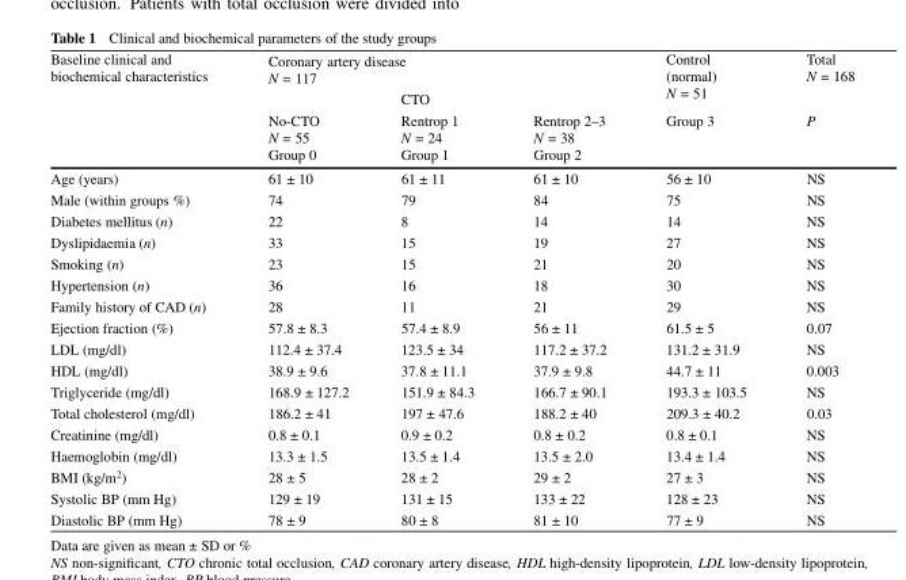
<table><thead><tr><td rowspan="3">Baseline clinical and biochemical characteristics</td><td colspan="3">Coronary artery disease N = 117</td><td rowspan="3">Control (normal) N = 51 Group 3</td><td rowspan="3">Total N = 168 P</td></tr><tr><td rowspan="2">No-CTO N = 55 Group 0</td><td colspan="2">CTO</td></tr><tr><td>Rentrop 1 N = 24 Group 1</td><td>Rentrop 2–3 N = 38 Group 2</td></tr></thead><tbody><tr><td>Age (years)</td><td>61 ± 10</td><td>61 ± 11</td><td>61 ± 10</td><td>56 ± 10</td><td>NS</td></tr><tr><td>Male (within groups %)</td><td>74</td><td>79</td><td>84</td><td>75</td><td>NS</td></tr><tr><td>Diabetes mellitus (n)</td><td>22</td><td>8</td><td>14</td><td>14</td><td>NS</td></tr><tr><td>Dyslipidaemia (n)</td><td>33</td><td>15</td><td>19</td><td>27</td><td>NS</td></tr><tr><td>Smoking (n)</td><td>23</td><td>15</td><td>21</td><td>20</td><td>NS</td></tr><tr><td>Hypertension (n)</td><td>36</td><td>16</td><td>18</td><td>30</td><td>NS</td></tr><tr><td>Family history of CAD (n)</td><td>28</td><td>11</td><td>21</td><td>29</td><td>NS</td></tr><tr><td>Ejection fraction (%)</td><td>57.8 ± 8.3</td><td>57.4 ± 8.9</td><td>56 ± 11</td><td>61.5 ± 5</td><td>0.07</td></tr><tr><td>LDL (mg/dl)</td><td>112.4 ± 37.4</td><td>123.5 ± 34</td><td>117.2 ± 37.2</td><td>131.2 ± 31.9</td><td>NS</td></tr><tr><td>HDL (mg/dl)</td><td>38.9 ± 9.6</td><td>37.8 ± 11.1</td><td>37.9 ± 9.8</td><td>44.7 ± 11</td><td>0.003</td></tr><tr><td>Triglyceride (mg/dl)</td><td>168.9 ± 127.2</td><td>151.9 ± 84.3</td><td>166.7 ± 90.1</td><td>193.3 ± 103.5</td><td>NS</td></tr><tr><td>Total cholesterol (mg/dl)</td><td>186.2 ± 41</td><td>197 ± 47.6</td><td>188.2 ± 40</td><td>209.3 ± 40.2</td><td>0.03</td></tr><tr><td>Creatinine (mg/dl)</td><td>0.8 ± 0.1</td><td>0.9 ± 0.2</td><td>0.8 ± 0.2</td><td>0.8 ± 0.1</td><td>NS</td></tr><tr><td>Haemoglobin (mg/dl)</td><td>13.3 ± 1.5</td><td>13.5 ± 1.4</td><td>13.5 ± 2.0</td><td>13.4 ± 1.4</td><td>NS</td></tr><tr><td>BMI (kg/m<sup>2</sup>)</td><td>28 ± 5</td><td>28 ± 2</td><td>29 ± 2</td><td>27 ± 3</td><td>NS</td></tr><tr><td>Systolic BP (mm Hg)</td><td>129 ± 19</td><td>131 ± 15</td><td>133 ± 22</td><td>128 ± 23</td><td>NS</td></tr><tr><td>Diastolic BP (mm Hg)</td><td>78 ± 9</td><td>80 ± 8</td><td>81 ± 10</td><td>77 ± 9</td><td>NS</td></tr></tbody></table>